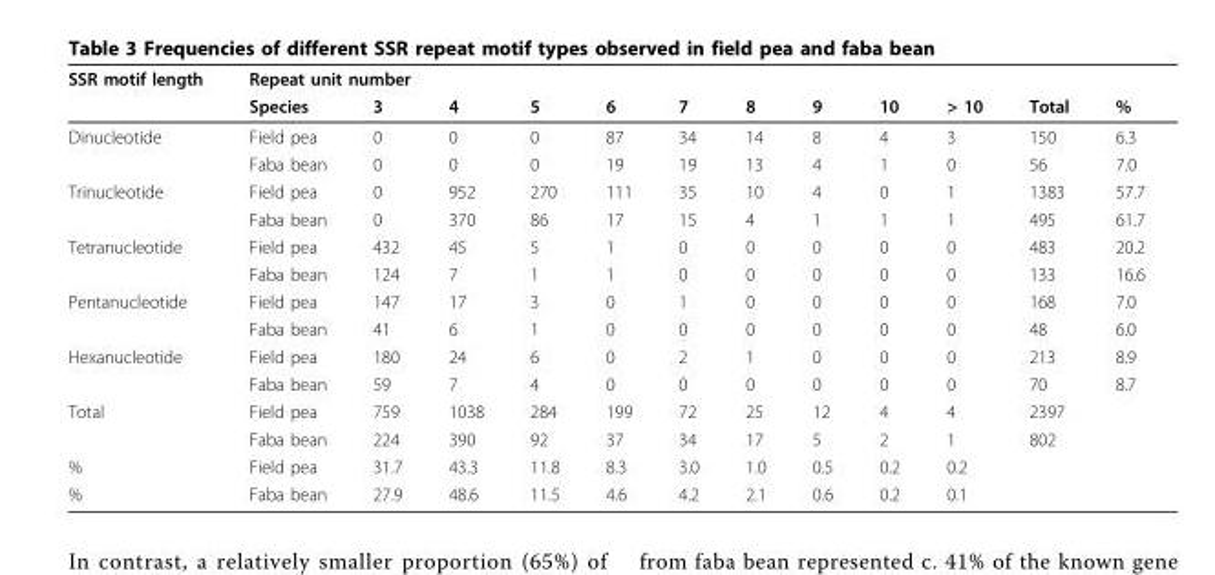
<table><thead><tr><td rowspan="2">SSR motif length</td><td colspan="12">Repeat unit number</td></tr><tr><td>Species</td><td>3</td><td>4</td><td>5</td><td>6</td><td>7</td><td>8</td><td>9</td><td>10</td><td>&gt; 10</td><td>Total</td><td>%</td></tr></thead><tbody><tr><td rowspan="2">Dinucleotide</td><td>Field pea</td><td>0</td><td>0</td><td>0</td><td>87</td><td>34</td><td>14</td><td>8</td><td>4</td><td>3</td><td>150</td><td>6.3</td></tr><tr><td>Faba bean</td><td>0</td><td>0</td><td>0</td><td>19</td><td>19</td><td>13</td><td>4</td><td>1</td><td>0</td><td>56</td><td>7.0</td></tr><tr><td rowspan="2">Trinucleotide</td><td>Field pea</td><td>0</td><td>952</td><td>270</td><td>111</td><td>35</td><td>10</td><td>4</td><td>0</td><td>1</td><td>1383</td><td>57.7</td></tr><tr><td>Faba bean</td><td>0</td><td>370</td><td>86</td><td>17</td><td>15</td><td>4</td><td>1</td><td>1</td><td>1</td><td>495</td><td>61.7</td></tr><tr><td rowspan="2">Tetranucleotide</td><td>Field pea</td><td>432</td><td>45</td><td>5</td><td>1</td><td>0</td><td>0</td><td>0</td><td>0</td><td>0</td><td>483</td><td>20.2</td></tr><tr><td>Faba bean</td><td>124</td><td>7</td><td>1</td><td>1</td><td>0</td><td>0</td><td>0</td><td>0</td><td>0</td><td>133</td><td>16.6</td></tr><tr><td rowspan="2">Pentanucleotide</td><td>Field pea</td><td>147</td><td>17</td><td>3</td><td>0</td><td>1</td><td>0</td><td>0</td><td>0</td><td>0</td><td>168</td><td>7.0</td></tr><tr><td>Faba bean</td><td>41</td><td>6</td><td>1</td><td>0</td><td>0</td><td>0</td><td>0</td><td>0</td><td>0</td><td>48</td><td>6.0</td></tr><tr><td rowspan="2">Hexanucleotide</td><td>Field pea</td><td>180</td><td>24</td><td>6</td><td>0</td><td>2</td><td>1</td><td>0</td><td>0</td><td>0</td><td>213</td><td>8.9</td></tr><tr><td>Faba bean</td><td>59</td><td>7</td><td>4</td><td>0</td><td>0</td><td>0</td><td>0</td><td>0</td><td>0</td><td>70</td><td>8.7</td></tr><tr><td rowspan="2">Total</td><td>Field pea</td><td>759</td><td>1038</td><td>284</td><td>199</td><td>72</td><td>25</td><td>12</td><td>4</td><td>4</td><td>2397</td><td></td></tr><tr><td>Faba bean</td><td>224</td><td>390</td><td>92</td><td>37</td><td>34</td><td>17</td><td>5</td><td>2</td><td>1</td><td>802</td><td></td></tr><tr><td>%</td><td>Field pea</td><td>31.7</td><td>43.3</td><td>11.8</td><td>8.3</td><td>3.0</td><td>1.0</td><td>0.5</td><td>0.2</td><td>0.2</td><td></td><td></td></tr><tr><td>%</td><td>Faba bean</td><td>27.9</td><td>48.6</td><td>11.5</td><td>4.6</td><td>4.2</td><td>2.1</td><td>0.6</td><td>0.2</td><td>0.1</td><td></td><td></td></tr></tbody></table>